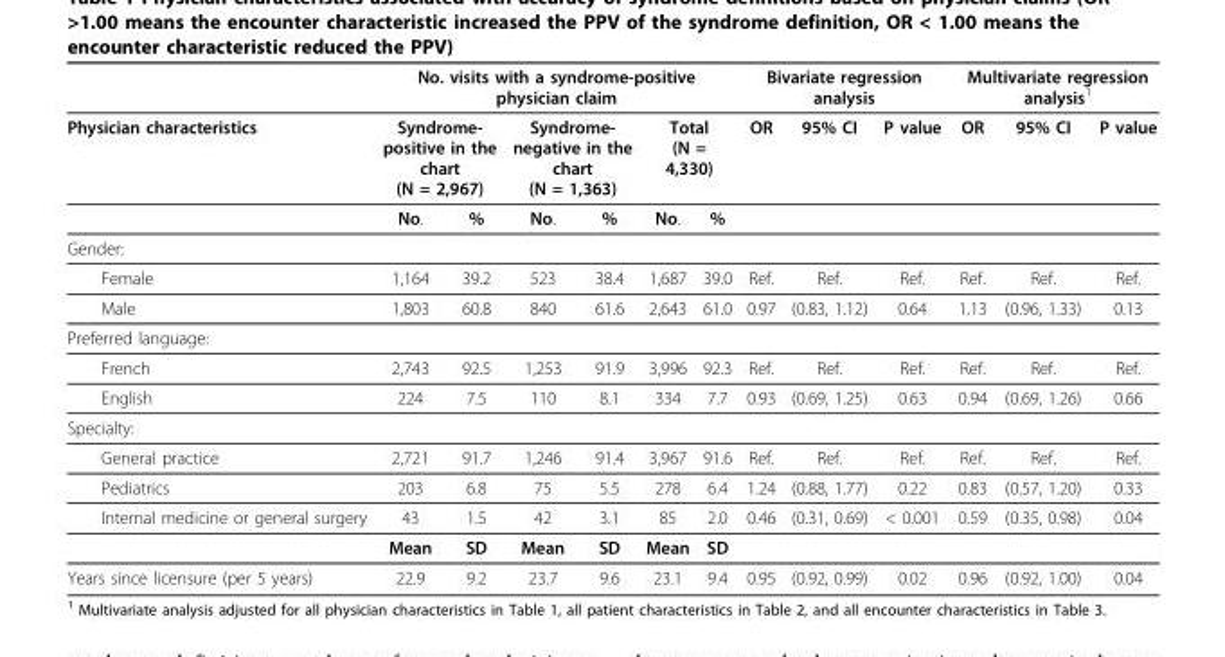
<table><thead><tr><td rowspan="3">Physician characteristics</td><td colspan="6">No. visits with a syndrome-positive physician claim</td><td colspan="3">Bivariate regression analysis</td><td colspan="3">Multivariate regression analysis1</td></tr><tr><td colspan="2">Syndrome- positive in the chart (N = 2,967)</td><td colspan="2">Syndrome- negative in the chart (N = 1,363)</td><td colspan="2">Total (N = 4,330)</td><td rowspan="2">OR</td><td rowspan="2">95% CI</td><td rowspan="2">P value</td><td rowspan="2">OR</td><td rowspan="2">95% CI</td><td rowspan="2">P value</td></tr><tr><td>No.</td><td>%</td><td>No.</td><td>%</td><td>No.</td><td>%</td></tr></thead><tbody><tr><td colspan="13">Gender:</td></tr><tr><td>Female</td><td>1,164</td><td>39.2</td><td>523</td><td>38.4</td><td>1,687</td><td>39.0</td><td>Ref.</td><td>Ref.</td><td>Ref.</td><td>Ref.</td><td>Ref.</td><td>Ref.</td></tr><tr><td>Male</td><td>1,803</td><td>60.8</td><td>840</td><td>61.6</td><td>2,643</td><td>61.0</td><td>0.97</td><td>(0.83, 1.12)</td><td>0.64</td><td>1.13</td><td>(0.96, 1.33)</td><td>0.13</td></tr><tr><td colspan="13">Preferred language:</td></tr><tr><td>French</td><td>2,743</td><td>92.5</td><td>1,253</td><td>91.9</td><td>3,996</td><td>92.3</td><td>Ref.</td><td>Ref.</td><td>Ref.</td><td>Ref.</td><td>Ref.</td><td>Ref.</td></tr><tr><td>English</td><td>224</td><td>7.5</td><td>110</td><td>8.1</td><td>334</td><td>7.7</td><td>0.93</td><td>(0.69, 1.25)</td><td>0.63</td><td>0.94</td><td>(0.69, 1.26)</td><td>0.66</td></tr><tr><td colspan="13">Specialty:</td></tr><tr><td>General practice</td><td>2,721</td><td>91.7</td><td>1,246</td><td>91.4</td><td>3,967</td><td>91.6</td><td>Ref.</td><td>Ref.</td><td>Ref.</td><td>Ref.</td><td>Ref.</td><td>Ref.</td></tr><tr><td>Pediatrics</td><td>203</td><td>6.8</td><td>75</td><td>5.5</td><td>278</td><td>6.4</td><td>1.24</td><td>(0.88, 1.77)</td><td>0.22</td><td>0.83</td><td>(0.57, 1.20)</td><td>0.33</td></tr><tr><td rowspan="2">Internal medicine or general surgery</td><td>43</td><td>1.5</td><td>42</td><td>3.1</td><td>85</td><td>2.0</td><td>0.46</td><td>(0.31, 0.69)</td><td>&lt; 0.001</td><td>0.59</td><td>(0.35, 0.98)</td><td>0.04</td></tr><tr><td>Mean</td><td>SD</td><td>Mean</td><td>SD</td><td>Mean</td><td>SD</td><td></td><td></td><td></td><td></td><td></td><td></td></tr><tr><td>Years since licensure (per 5 years)</td><td>22.9</td><td>9.2</td><td>23.7</td><td>9.6</td><td>23.1</td><td>9.4</td><td>0.95</td><td>(0.92, 0.99)</td><td>0.02</td><td>0.96</td><td>(0.92, 1.00)</td><td>0.04</td></tr></tbody></table>